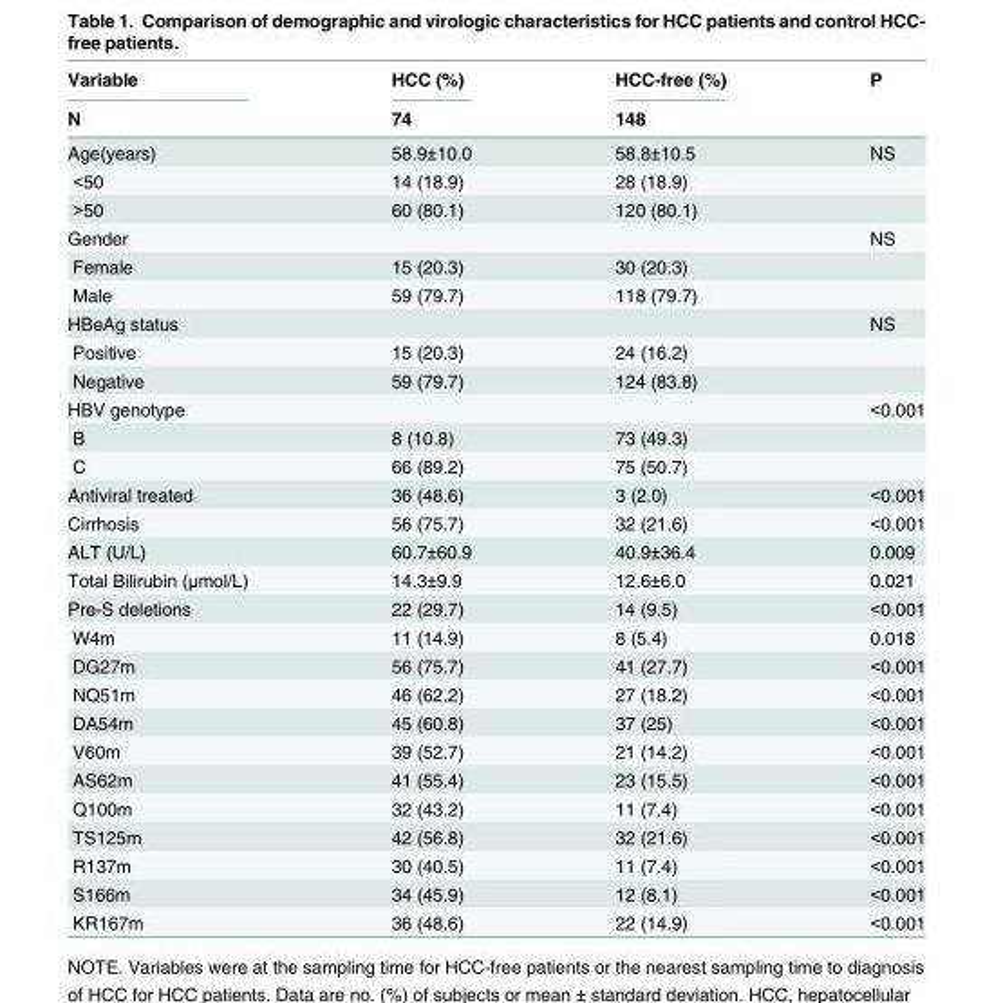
<table><thead><tr><td rowspan="2">Variable N</td><td rowspan="2">HCC (%) 74</td><td rowspan="2">HCC-free (%) 148</td><td rowspan="2">P</td></tr><tr></tr></thead><tbody><tr><td>Age(years)</td><td>58.9±10.0</td><td>58.8±10.5</td><td>NS</td></tr><tr><td>&lt;50</td><td>14 (18.9)</td><td>28 (18.9)</td><td></td></tr><tr><td>&gt;50</td><td>60 (80.1)</td><td>120 (80.1)</td><td></td></tr><tr><td>Gender</td><td></td><td></td><td>NS</td></tr><tr><td>Female</td><td>15 (20.3)</td><td>30 (20.3)</td><td></td></tr><tr><td>Male</td><td>59 (79.7)</td><td>118 (79.7)</td><td></td></tr><tr><td>HBeAg status</td><td></td><td></td><td>NS</td></tr><tr><td>Positive</td><td>15 (20.3)</td><td>24 (16.2)</td><td></td></tr><tr><td>Negative</td><td>59 (79.7)</td><td>124 (83.8)</td><td></td></tr><tr><td>HBV genotype</td><td></td><td></td><td>&lt;0.001</td></tr><tr><td>B</td><td>8 (10.8)</td><td>73 (49.3)</td><td></td></tr><tr><td>C</td><td>66 (89.2)</td><td>75 (50.7)</td><td></td></tr><tr><td>Antiviral treated</td><td>36 (48.6)</td><td>3 (2.0)</td><td>&lt;0.001</td></tr><tr><td>Cirrhosis</td><td>56 (75.7)</td><td>32 (21.6)</td><td>&lt;0.001</td></tr><tr><td>ALT (U/L)</td><td>60.7±60.9</td><td>40.9±36.4</td><td>0.009</td></tr><tr><td>Total Bilirubin (μmol/L)</td><td>14.3±9.9</td><td>12.6±6.0</td><td>0.021</td></tr><tr><td>Pre-S deletions</td><td>22 (29.7)</td><td>14 (9.5)</td><td>&lt;0.001</td></tr><tr><td>W4m</td><td>11 (14.9)</td><td>8 (5.4)</td><td>0.018</td></tr><tr><td>DG27m</td><td>56 (75.7)</td><td>41 (27.7)</td><td>&lt;0.001</td></tr><tr><td>NQ51m</td><td>46 (62.2)</td><td>27 (18.2)</td><td>&lt;0.001</td></tr><tr><td>DA54m</td><td>45 (60.8)</td><td>37 (25)</td><td>&lt;0.001</td></tr><tr><td>V60m</td><td>39 (52.7)</td><td>21 (14.2)</td><td>&lt;0.001</td></tr><tr><td>AS62m</td><td>41 (55.4)</td><td>23 (15.5)</td><td>&lt;0.001</td></tr><tr><td>Q100m</td><td>32 (43.2)</td><td>11 (7.4)</td><td>&lt;0.001</td></tr><tr><td>TS125m</td><td>42 (56.8)</td><td>32 (21.6)</td><td>&lt;0.001</td></tr><tr><td>R137m</td><td>30 (40.5)</td><td>11 (7.4)</td><td>&lt;0.001</td></tr><tr><td>S166m</td><td>34 (45.9)</td><td>12 (8.1)</td><td>&lt;0.001</td></tr><tr><td>KR167m</td><td>36 (48.6)</td><td>22 (14.9)</td><td>&lt;0.001</td></tr></tbody></table>